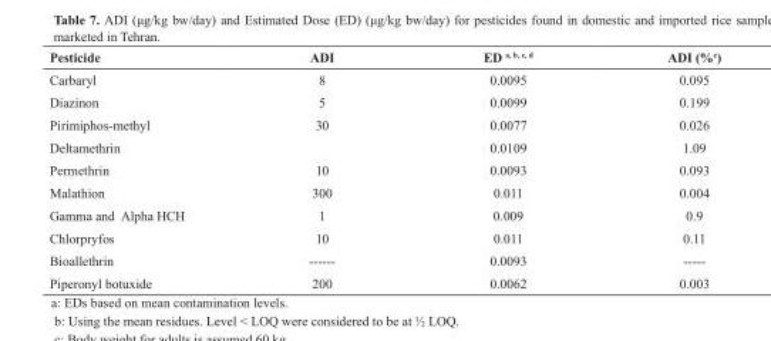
<table><thead><tr><td>Pesticide</td><td>ADI</td><td>ED <sup>a</sup>, <sup>b</sup>, <sup>c</sup>, <sup>d</sup></td><td>ADI (%e)</td></tr></thead><tbody><tr><td>Carbaryl</td><td>8</td><td>0.0095</td><td>0.095</td></tr><tr><td>Diazinon</td><td>5</td><td>0.0099</td><td>0.199</td></tr><tr><td>Pirimiphos-methyl</td><td>30</td><td>0.0077</td><td>0.026</td></tr><tr><td>Deltamethrin</td><td></td><td>0.0109</td><td>1.09</td></tr><tr><td>Permethrin</td><td>10</td><td>0.0093</td><td>0.093</td></tr><tr><td>Malathion</td><td>300</td><td>0.011</td><td>0.004</td></tr><tr><td>Gamma and Alpha HCH</td><td>1</td><td>0.009</td><td>0.9</td></tr><tr><td>Chlorpryfos</td><td>10</td><td>0.011</td><td>0.11</td></tr><tr><td>Bioallethrin</td><td>------</td><td>0.0093</td><td>-----</td></tr><tr><td>Piperonyl botuxide</td><td>200</td><td>0.0062</td><td>0.003</td></tr></tbody></table>